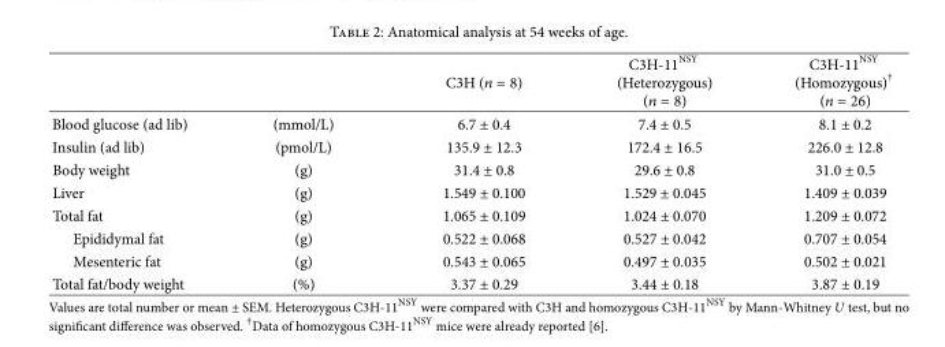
<table><thead><tr><td></td><td></td><td>C3H (𝑛𝑛 𝑛 𝑛)</td><td>C3H-11NSY (Heterozygous) (𝑛𝑛 𝑛 𝑛)</td><td>C3H-11NSY (Homozygous)† (𝑛𝑛 𝑛 𝑛𝑛)</td></tr></thead><tbody><tr><td>Blood glucose (ad lib)</td><td>(mmol/L)</td><td>6.7 ± 0.4</td><td>7.4 ± 0.5</td><td>8.1 ± 0.2</td></tr><tr><td>Insulin (ad lib)</td><td>(pmol/L)</td><td>135.9 ± 12.3</td><td>172.4 ± 16.5</td><td>226.0 ± 12.8</td></tr><tr><td>Body weight</td><td>(g)</td><td>31.4 ± 0.8</td><td>29.6 ± 0.8</td><td>31.0 ± 0.5</td></tr><tr><td>Liver</td><td>(g)</td><td>1.549 ± 0.100</td><td>1.529 ± 0.045</td><td>1.409 ± 0.039</td></tr><tr><td>Total fat</td><td>(g)</td><td>1.065 ± 0.109</td><td>1.024 ± 0.070</td><td>1.209 ± 0.072</td></tr><tr><td>Epididymal fat</td><td>(g)</td><td>0.522 ± 0.068</td><td>0.527 ± 0.042</td><td>0.707 ± 0.054</td></tr><tr><td>Mesenteric fat</td><td>(g)</td><td>0.543 ± 0.065</td><td>0.497 ± 0.035</td><td>0.502 ± 0.021</td></tr><tr><td>Total fat/body weight</td><td>(%)</td><td>3.37 ± 0.29</td><td>3.44 ± 0.18</td><td>3.87 ± 0.19</td></tr></tbody></table>